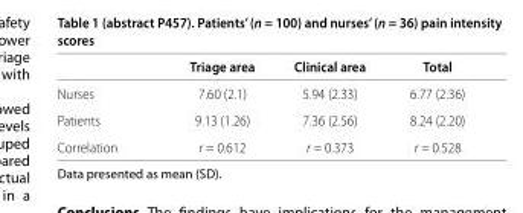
<table><thead><tr><td></td><td>Triage area</td><td>Clinical area</td><td>Total</td></tr></thead><tbody><tr><td>Nurses</td><td>7.60 (2.1)</td><td>5.94 (2.33)</td><td>6.77 (2.36)</td></tr><tr><td>Patients</td><td>9.13 (1.26)</td><td>7.36 (2.56)</td><td>8.24 (2.20)</td></tr><tr><td>Correlation</td><td>r = 0.612</td><td>r = 0.373</td><td>r = 0.528</td></tr></tbody></table>